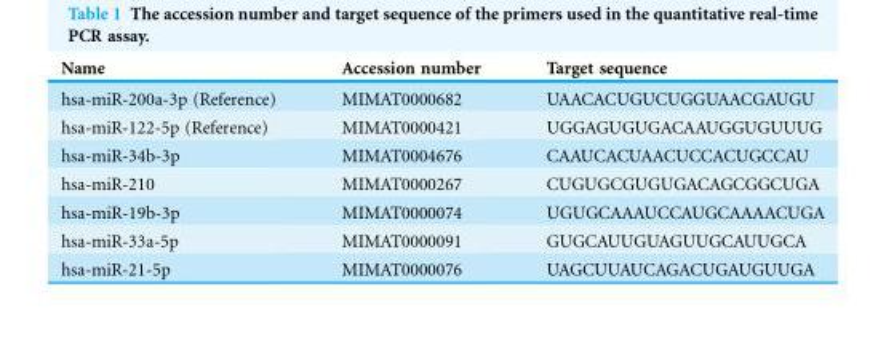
<table><thead><tr><td>Name</td><td>Accession number</td><td>Target sequence</td></tr></thead><tbody><tr><td>hsa-miR-200a-3p (Reference)</td><td>MIMAT0000682</td><td>UAACACUGUCUGGUAACGAUGU</td></tr><tr><td>hsa-miR-122-5p (Reference)</td><td>MIMAT0000421</td><td>UGGAGUGUGACAAUGGUGUUUG</td></tr><tr><td>hsa-miR-34b-3p</td><td>MIMAT0004676</td><td>CAAUCACUAACUCCACUGCCAU</td></tr><tr><td>hsa-miR-210</td><td>MIMAT0000267</td><td>CUGUGCGUGUGACAGCGGCUGA</td></tr><tr><td>hsa-miR-19b-3p</td><td>MIMAT0000074</td><td>UGUGCAAAUCCAUGCAAAACUGA</td></tr><tr><td>hsa-miR-33a-5p</td><td>MIMAT0000091</td><td>GUGCAUUGUAGUUGCAUUGCA</td></tr><tr><td>hsa-miR-21-5p</td><td>MIMAT0000076</td><td>UAGCUUAUCAGACUGAUGUUGA</td></tr></tbody></table>